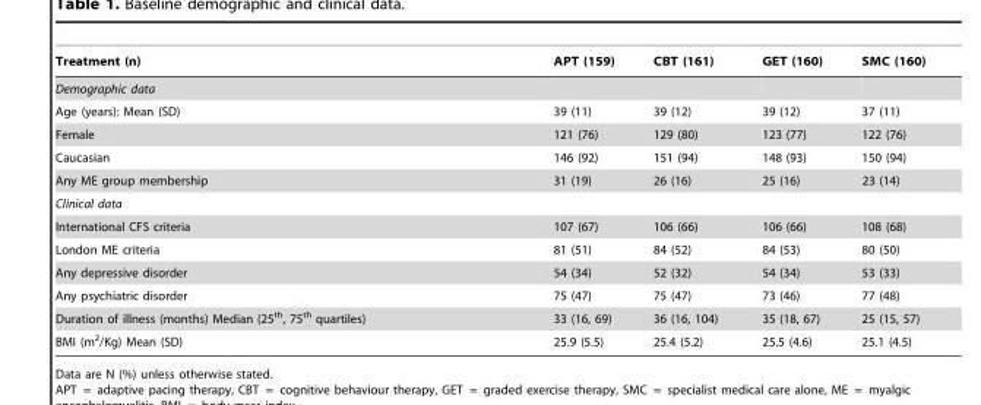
<table><thead><tr><td>Treatment (n)</td><td>APT (159)</td><td>CBT (161)</td><td>GET (160)</td><td>SMC (160)</td></tr></thead><tbody><tr><td colspan="5">Demographic data</td></tr><tr><td>Age (years): Mean (SD)</td><td>39 (11)</td><td>39 (12)</td><td>39 (12)</td><td>37 (11)</td></tr><tr><td>Female</td><td>121 (76)</td><td>129 (80)</td><td>123 (77)</td><td>122 (76)</td></tr><tr><td>Caucasian</td><td>146 (92)</td><td>151 (94)</td><td>148 (93)</td><td>150 (94)</td></tr><tr><td>Any ME group membership</td><td>31 (19)</td><td>26 (16)</td><td>25 (16)</td><td>23 (14)</td></tr><tr><td colspan="5">Clinical data</td></tr><tr><td>International CFS criteria</td><td>107 (67)</td><td>106 (66)</td><td>106 (66)</td><td>108 (68)</td></tr><tr><td>London ME criteria</td><td>81 (51)</td><td>84 (52)</td><td>84 (53)</td><td>80 (50)</td></tr><tr><td>Any depressive disorder</td><td>54 (34)</td><td>52 (32)</td><td>54 (34)</td><td>53 (33)</td></tr><tr><td>Any psychiatric disorder</td><td>75 (47)</td><td>75 (47)</td><td>73 (46)</td><td>77 (48)</td></tr><tr><td>Duration of illness (months) Median (25<sup>th</sup>, 75<sup>th</sup> quartiles)</td><td>33 (16, 69)</td><td>36 (16, 104)</td><td>35 (18, 67)</td><td>25 (15, 57)</td></tr><tr><td>BMI (m<sup>2</sup>/Kg) Mean (SD)</td><td>25.9 (5.5)</td><td>25.4 (5.2)</td><td>25.5 (4.6)</td><td>25.1 (4.5)</td></tr></tbody></table>